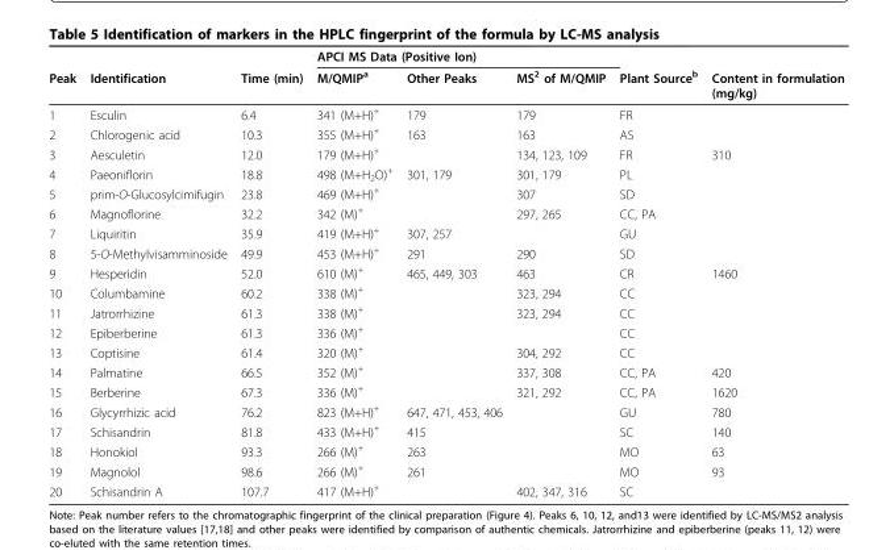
<table><thead><tr><td rowspan="2">Peak</td><td rowspan="2">Identification</td><td rowspan="2">Time (min)</td><td colspan="3">APCI MS Data (Positive Ion)</td><td rowspan="2">Plant Source<sup>b</sup></td><td rowspan="2">Content in formulation (mg/kg)</td></tr><tr><td>M/QMIP<sup>a</sup></td><td>Other Peaks</td><td>MS<sup>2</sup> of M/QMIP</td></tr></thead><tbody><tr><td>1</td><td>Esculin</td><td>6.4</td><td>341 (M+H)<sup>+</sup></td><td>179</td><td>179</td><td>FR</td><td></td></tr><tr><td>2</td><td>Chlorogenic acid</td><td>10.3</td><td>355 (M+H)<sup>+</sup></td><td>163</td><td>163</td><td>AS</td><td></td></tr><tr><td>3</td><td>Aesculetin</td><td>12.0</td><td>179 (M+H)<sup>+</sup></td><td></td><td>134, 123, 109</td><td>FR</td><td>310</td></tr><tr><td>4</td><td>Paeoniflorin</td><td>18.8</td><td>498 (M+H<sub>2</sub>O)<sup>+</sup></td><td>301, 179</td><td>301, 179</td><td>PL</td><td></td></tr><tr><td>5</td><td>prim-O-Glucosylcimifugin</td><td>23.8</td><td>469 (M+H)<sup>+</sup></td><td></td><td>307</td><td>SD</td><td></td></tr><tr><td>6</td><td>Magnoflorine</td><td>32.2</td><td>342 (M)<sup>+</sup></td><td></td><td>297, 265</td><td>CC, PA</td><td></td></tr><tr><td>7</td><td>Liquiritin</td><td>35.9</td><td>419 (M+H)<sup>+</sup></td><td>307, 257</td><td></td><td>GU</td><td></td></tr><tr><td>8</td><td>5-O-Methylvisamminoside</td><td>49.9</td><td>453 (M+H)<sup>+</sup></td><td>291</td><td>290</td><td>SD</td><td></td></tr><tr><td>9</td><td>Hesperidin</td><td>52.0</td><td>610 (M)<sup>+</sup></td><td>465, 449, 303</td><td>463</td><td>CR</td><td>1460</td></tr><tr><td>10</td><td>Columbamine</td><td>60.2</td><td>338 (M)<sup>+</sup></td><td></td><td>323, 294</td><td>CC</td><td></td></tr><tr><td>11</td><td>Jatrorrhizine</td><td>61.3</td><td>338 (M)<sup>+</sup></td><td></td><td>323, 294</td><td>CC</td><td></td></tr><tr><td>12</td><td>Epiberberine</td><td>61.3</td><td>336 (M)<sup>+</sup></td><td></td><td></td><td>CC</td><td></td></tr><tr><td>13</td><td>Coptisine</td><td>61.4</td><td>320 (M)<sup>+</sup></td><td></td><td>304, 292</td><td>CC</td><td></td></tr><tr><td>14</td><td>Palmatine</td><td>66.5</td><td>352 (M)<sup>+</sup></td><td></td><td>337, 308</td><td>CC, PA</td><td>420</td></tr><tr><td>15</td><td>Berberine</td><td>67.3</td><td>336 (M)<sup>+</sup></td><td></td><td>321, 292</td><td>CC, PA</td><td>1620</td></tr><tr><td>16</td><td>Glycyrrhizic acid</td><td>76.2</td><td>823 (M+H)<sup>+</sup></td><td>647, 471, 453, 406</td><td></td><td>GU</td><td>780</td></tr><tr><td>17</td><td>Schisandrin</td><td>81.8</td><td>433 (M+H)<sup>+</sup></td><td>415</td><td></td><td>SC</td><td>140</td></tr><tr><td>18</td><td>Honokiol</td><td>93.3</td><td>266 (M)<sup>+</sup></td><td>263</td><td></td><td>MO</td><td>63</td></tr><tr><td>19</td><td>Magnolol</td><td>98.6</td><td>266 (M)<sup>+</sup></td><td>261</td><td></td><td>MO</td><td>93</td></tr><tr><td>20</td><td>Schisandrin A</td><td>107.7</td><td>417 (M+H)<sup>+</sup></td><td></td><td>402, 347, 316</td><td>SC</td><td></td></tr></tbody></table>